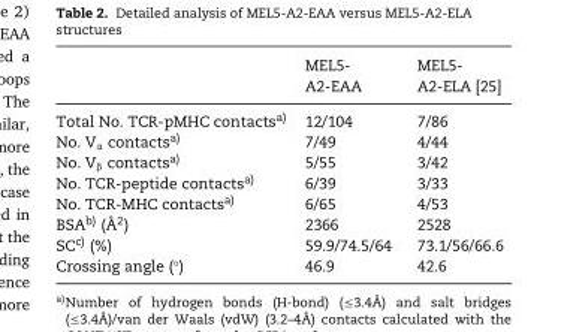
<table><thead><tr><td></td><td>MEL5- A2-EAA</td><td>MEL5- A2-ELA [25]</td></tr></thead><tbody><tr><td>Total No. TCR-pMHC contactsa)</td><td>12/104</td><td>7/86</td></tr><tr><td>No. V<sub>α</sub> contactsa)</td><td>7/49</td><td>4/44</td></tr><tr><td>No. V<sub>β</sub> contactsa)</td><td>5/55</td><td>3/42</td></tr><tr><td>No. TCR-peptide contactsa)</td><td>6/39</td><td>3/33</td></tr><tr><td>No. TCR-MHC contactsa)</td><td>6/65</td><td>4/53</td></tr><tr><td>BSAb) ( ˚A2)</td><td>2366</td><td>2528</td></tr><tr><td>SCc) (%)</td><td>59.9/74.5/64</td><td>73.1/56/66.6</td></tr><tr><td>Crossing angle (°)</td><td>46.9</td><td>42.6</td></tr></tbody></table>